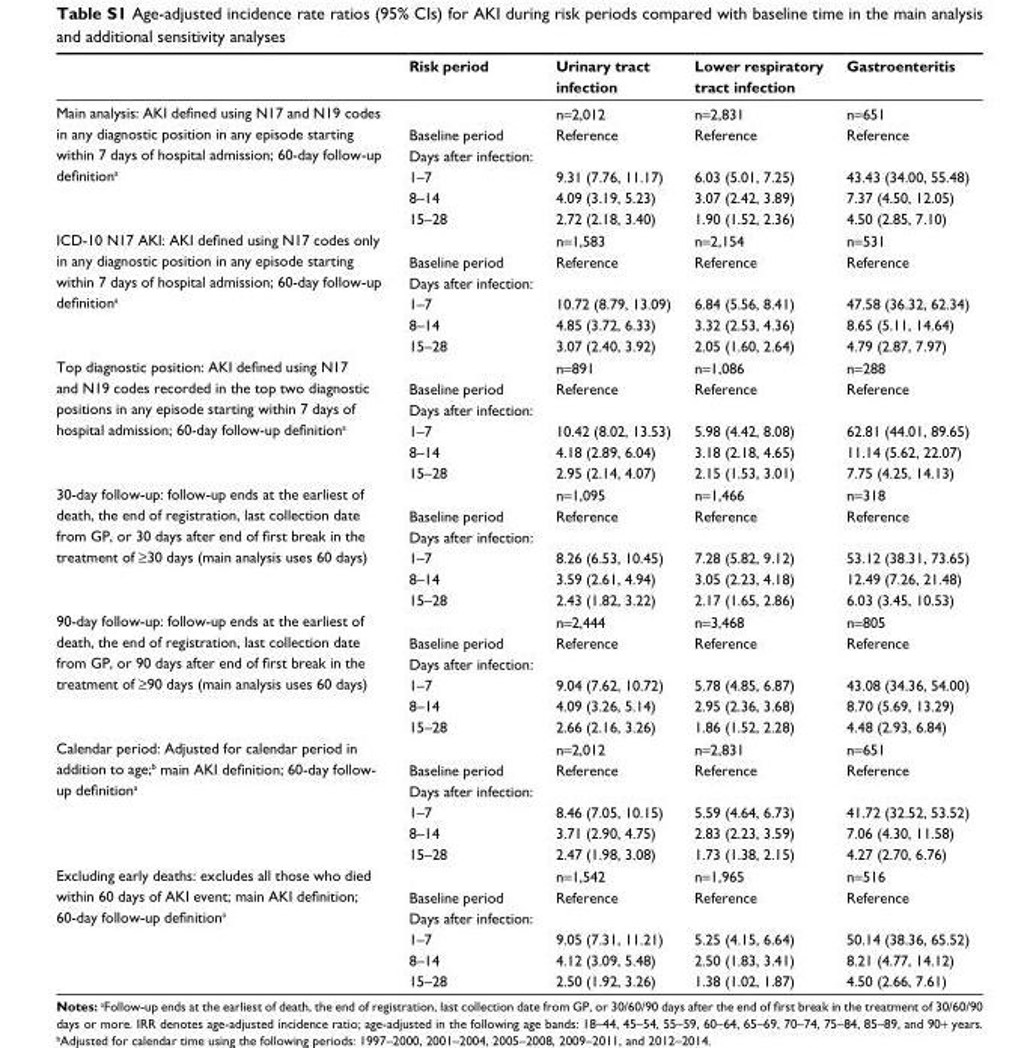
<table><thead><tr><td></td><td>Risk period</td><td>Urinary tract infection</td><td>Lower respiratory tract infection</td><td>Gastroenteritis</td></tr></thead><tbody><tr><td rowspan="6">Main analysis: AKI defined using N17 and N19 codes in any diagnostic position in any episode starting within 7 days of hospital admission; 60-day follow-up definition<sup>a</sup></td><td></td><td>n=2,012</td><td>n=2,831</td><td>n=651</td></tr><tr><td>Baseline period</td><td>Reference</td><td>Reference</td><td>Reference</td></tr><tr><td colspan="4">Days after infection:</td></tr><tr><td>1–7</td><td>9.31 (7.76, 11.17)</td><td>6.03 (5.01, 7.25)</td><td>43.43 (34.00, 55.48)</td></tr><tr><td>8–14</td><td>4.09 (3.19, 5.23)</td><td>3.07 (2.42, 3.89)</td><td>7.37 (4.50, 12.05)</td></tr><tr><td>15–28</td><td>2.72 (2.18, 3.40)</td><td>1.90 (1.52, 2.36)</td><td>4.50 (2.85, 7.10)</td></tr><tr><td rowspan="6">ICD-10 N17 AKI: AKI defined using N17 codes only in any diagnostic position in any episode starting within 7 days of hospital admission; 60-day follow-up definition<sup>a</sup></td><td></td><td>n=1,583</td><td>n=2,154</td><td>n=531</td></tr><tr><td>Baseline period</td><td>Reference</td><td>Reference</td><td>Reference</td></tr><tr><td colspan="4">Days after infection:</td></tr><tr><td>1–7</td><td>10.72 (8.79, 13.09)</td><td>6.84 (5.56, 8.41)</td><td>47.58 (36.32, 62.34)</td></tr><tr><td>8–14</td><td>4.85 (3.72, 6.33)</td><td>3.32 (2.53, 4.36)</td><td>8.65 (5.11, 14.64)</td></tr><tr><td>15–28</td><td>3.07 (2.40, 3.92)</td><td>2.05 (1.60, 2.64)</td><td>4.79 (2.87, 7.97)</td></tr><tr><td rowspan="6">Top diagnostic position: AKI defined using N17 and N19 codes recorded in the top two diagnostic positions in any episode starting within 7 days of hospital admission; 60-day follow-up definition<sup>a</sup></td><td></td><td>n=891</td><td>n=1,086</td><td>n=288</td></tr><tr><td>Baseline period</td><td>Reference</td><td>Reference</td><td>Reference</td></tr><tr><td colspan="4">Days after infection:</td></tr><tr><td>1–7</td><td>10.42 (8.02, 13.53)</td><td>5.98 (4.42, 8.08)</td><td>62.81 (44.01, 89.65)</td></tr><tr><td>8–14</td><td>4.18 (2.89, 6.04)</td><td>3.18 (2.18, 4.65)</td><td>11.14 (5.62, 22.07)</td></tr><tr><td>15–28</td><td>2.95 (2.14, 4.07)</td><td>2.15 (1.53, 3.01)</td><td>7.75 (4.25, 14.13)</td></tr><tr><td rowspan="6">30-day follow-up: follow-up ends at the earliest of death, the end of registration, last collection date from GP, or 30 days after end of first break in the treatment of ≥30 days (main analysis uses 60 days)</td><td></td><td>n=1,095</td><td>n=1,466</td><td>n=318</td></tr><tr><td>Baseline period</td><td>Reference</td><td>Reference</td><td>Reference</td></tr><tr><td colspan="4">Days after infection:</td></tr><tr><td>1–7</td><td>8.26 (6.53, 10.45)</td><td>7.28 (5.82, 9.12)</td><td>53.12 (38.31, 73.65)</td></tr><tr><td>8–14</td><td>3.59 (2.61, 4.94)</td><td>3.05 (2.23, 4.18)</td><td>12.49 (7.26, 21.48)</td></tr><tr><td>15–28</td><td>2.43 (1.82, 3.22)</td><td>2.17 (1.65, 2.86)</td><td>6.03 (3.45, 10.53)</td></tr><tr><td rowspan="6">90-day follow-up: follow-up ends at the earliest of death, the end of registration, last collection date from GP, or 90 days after end of first break in the treatment of ≥90 days (main analysis uses 60 days)</td><td></td><td>n=2,444</td><td>n=3,468</td><td>n=805</td></tr><tr><td>Baseline period</td><td>Reference</td><td>Reference</td><td>Reference</td></tr><tr><td colspan="4">Days after infection:</td></tr><tr><td>1–7</td><td>9.04 (7.62, 10.72)</td><td>5.78 (4.85, 6.87)</td><td>43.08 (34.36, 54.00)</td></tr><tr><td>8–14</td><td>4.09 (3.26, 5.14)</td><td>2.95 (2.36, 3.68)</td><td>8.70 (5.69, 13.29)</td></tr><tr><td>15–28</td><td>2.66 (2.16, 3.26)</td><td>1.86 (1.52, 2.28)</td><td>4.48 (2.93, 6.84)</td></tr><tr><td rowspan="6">Calendar period: Adjusted for calendar period in addition to age;<sup>b</sup> main AKI definition; 60-day follow- up definition<sup>a</sup></td><td></td><td>n=2,012</td><td>n=2,831</td><td>n=651</td></tr><tr><td>Baseline period</td><td>Reference</td><td>Reference</td><td>Reference</td></tr><tr><td colspan="4">Days after infection:</td></tr><tr><td>1–7</td><td>8.46 (7.05, 10.15)</td><td>5.59 (4.64, 6.73)</td><td>41.72 (32.52, 53.52)</td></tr><tr><td>8–14</td><td>3.71 (2.90, 4.75)</td><td>2.83 (2.23, 3.59)</td><td>7.06 (4.30, 11.58)</td></tr><tr><td>15–28</td><td>2.47 (1.98, 3.08)</td><td>1.73 (1.38, 2.15)</td><td>4.27 (2.70, 6.76)</td></tr><tr><td rowspan="6">Excluding early deaths: excludes all those who died within 60 days of AKI event; main AKI definition; 60-day follow-up definition<sup>a</sup></td><td></td><td>n=1,542</td><td>n=1,965</td><td>n=516</td></tr><tr><td>Baseline period</td><td>Reference</td><td>Reference</td><td>Reference</td></tr><tr><td colspan="4">Days after infection:</td></tr><tr><td>1–7</td><td>9.05 (7.31, 11.21)</td><td>5.25 (4.15, 6.64)</td><td>50.14 (38.36, 65.52)</td></tr><tr><td>8–14</td><td>4.12 (3.09, 5.48)</td><td>2.50 (1.83, 3.41)</td><td>8.21 (4.77, 14.12)</td></tr><tr><td>15–28</td><td>2.50 (1.92, 3.26)</td><td>1.38 (1.02, 1.87)</td><td>4.50 (2.66, 7.61)</td></tr></tbody></table>